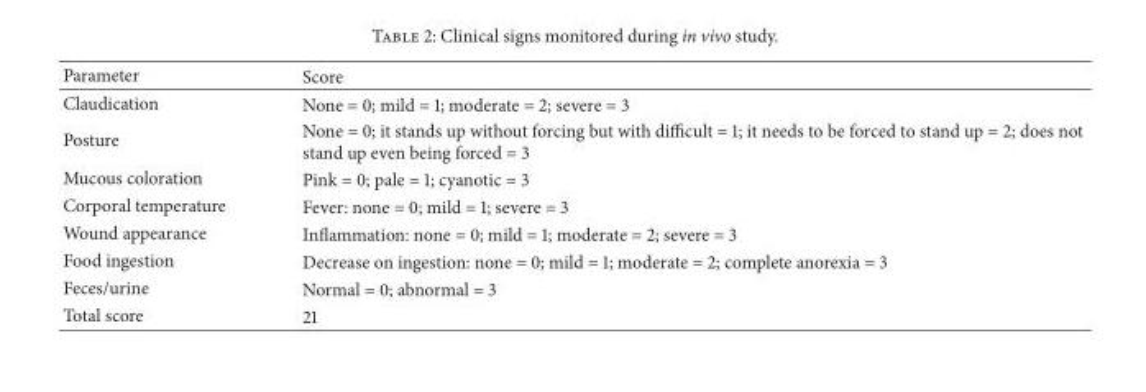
<table><thead><tr><td>Parameter</td><td>Score</td></tr></thead><tbody><tr><td>Claudication</td><td>None = 0; mild = 1; moderate = 2; severe = 3</td></tr><tr><td>Posture</td><td>None = 0; it stands up without forcing but with difficult = 1; it needs to be forced to stand up = 2; does not stand up even being forced = 3</td></tr><tr><td>Mucous coloration</td><td>Pink = 0; pale = 1; cyanotic = 3</td></tr><tr><td>Corporal temperature</td><td>Fever: none = 0; mild = 1; severe = 3</td></tr><tr><td>Wound appearance</td><td>Inflammation: none = 0; mild = 1; moderate = 2; severe = 3</td></tr><tr><td>Food ingestion</td><td>Decrease on ingestion: none = 0; mild = 1; moderate = 2; complete anorexia = 3</td></tr><tr><td>Feces/urine</td><td>Normal = 0; abnormal = 3</td></tr><tr><td>Total score</td><td>21</td></tr></tbody></table>